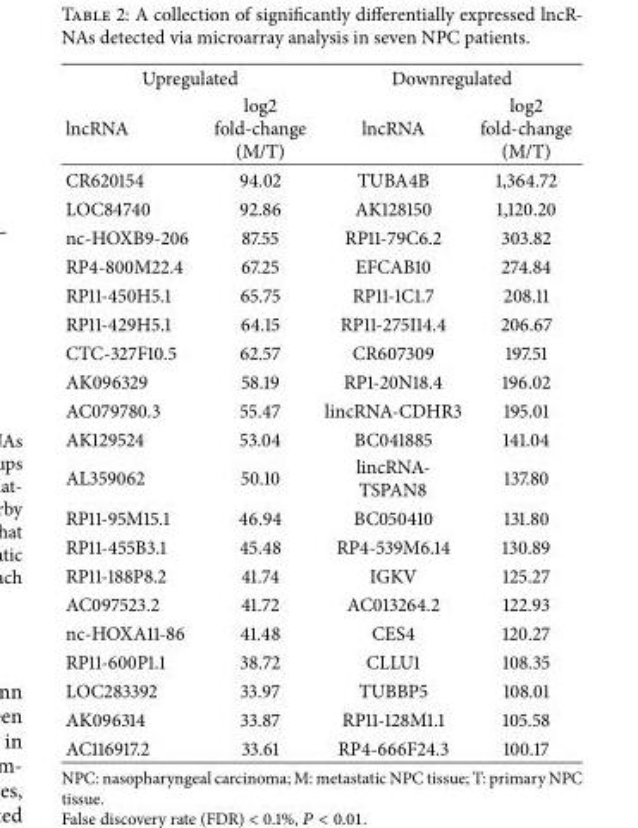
<table><thead><tr><td colspan="2">Upregulated</td><td colspan="2">Downregulated</td></tr><tr><td>lncRNA</td><td>log2 fold-change (M/T)</td><td>lncRNA</td><td>log2 fold-change (M/T)</td></tr></thead><tbody><tr><td>CR620154</td><td>94.02</td><td>TUBA4B</td><td>1,364.72</td></tr><tr><td>LOC84740</td><td>92.86</td><td>AK128150</td><td>1,120.20</td></tr><tr><td>nc-HOXB9-206</td><td>87.55</td><td>RP11-79C6.2</td><td>303.82</td></tr><tr><td>RP4-800M22.4</td><td>67.25</td><td>EFCAB10</td><td>274.84</td></tr><tr><td>RP11-450H5.1</td><td>65.75</td><td>RP11-1C1.7</td><td>208.11</td></tr><tr><td>RP11-429H5.1</td><td>64.15</td><td>RP11-275I14.4</td><td>206.67</td></tr><tr><td>CTC-327F10.5</td><td>62.57</td><td>CR607309</td><td>197.51</td></tr><tr><td>AK096329</td><td>58.19</td><td>RP1-20N18.4</td><td>196.02</td></tr><tr><td>AC079780.3</td><td>55.47</td><td>lincRNA-CDHR3</td><td>195.01</td></tr><tr><td>AK129524</td><td>53.04</td><td>BC041885</td><td>141.04</td></tr><tr><td>AL359062</td><td>50.10</td><td>lincRNA- TSPAN8</td><td>137.80</td></tr><tr><td>RP11-95M15.1</td><td>46.94</td><td>BC050410</td><td>131.80</td></tr><tr><td>RP11-455B3.1</td><td>45.48</td><td>RP4-539M6.14</td><td>130.89</td></tr><tr><td>RP11-188P8.2</td><td>41.74</td><td>IGKV</td><td>125.27</td></tr><tr><td>AC097523.2</td><td>41.72</td><td>AC013264.2</td><td>122.93</td></tr><tr><td>nc-HOXA11-86</td><td>41.48</td><td>CES4</td><td>120.27</td></tr><tr><td>RP11-600P1.1</td><td>38.72</td><td>CLLU1</td><td>108.35</td></tr><tr><td>LOC283392</td><td>33.97</td><td>TUBBP5</td><td>108.01</td></tr><tr><td>AK096314</td><td>33.87</td><td>RP11-128M1.1</td><td>105.58</td></tr><tr><td>AC116917.2</td><td>33.61</td><td>RP4-666F24.3</td><td>100.17</td></tr></tbody></table>